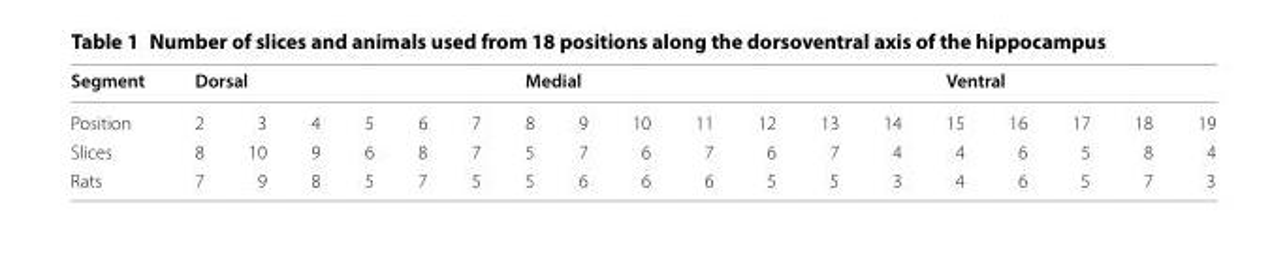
<table><thead><tr><td rowspan="2">Segment Position</td><td colspan="6">Dorsal</td><td colspan="7">Medial</td><td colspan="5">Ventral</td></tr><tr><td>2</td><td>3</td><td>4</td><td>5</td><td>6</td><td>7</td><td>8</td><td>9</td><td>10</td><td>11</td><td>12</td><td>13</td><td>14</td><td>15</td><td>16</td><td>17</td><td>18</td><td>19</td></tr></thead><tbody><tr><td>Slices</td><td>8</td><td>10</td><td>9</td><td>6</td><td>8</td><td>7</td><td>5</td><td>7</td><td>6</td><td>7</td><td>6</td><td>7</td><td>4</td><td>4</td><td>6</td><td>5</td><td>8</td><td>4</td></tr><tr><td>Rats</td><td>7</td><td>9</td><td>8</td><td>5</td><td>7</td><td>5</td><td>5</td><td>6</td><td>6</td><td>6</td><td>5</td><td>5</td><td>3</td><td>4</td><td>6</td><td>5</td><td>7</td><td>3</td></tr></tbody></table>